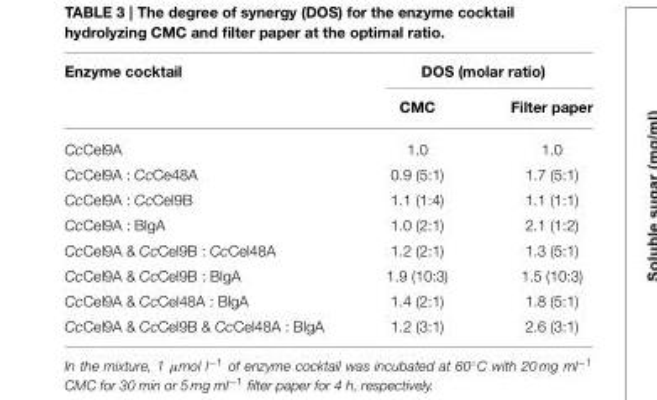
<table><thead><tr><td rowspan="2">Enzyme cocktail</td><td colspan="2">DOS (molar ratio)</td></tr><tr><td>CMC</td><td>Filter paper</td></tr></thead><tbody><tr><td>CcCel9A</td><td>1.0</td><td>1.0</td></tr><tr><td>CcCel9A : CcCe48A</td><td>0.9 (5:1)</td><td>1.7 (5:1)</td></tr><tr><td>CcCel9A : CcCel9B</td><td>1.1 (1:4)</td><td>1.1 (1:1)</td></tr><tr><td>CcCel9A : BlgA</td><td>1.0 (2:1)</td><td>2.1 (1:2)</td></tr><tr><td>CcCel9A &amp; CcCel9B : CcCel48A</td><td>1.2 (2:1)</td><td>1.3 (5:1)</td></tr><tr><td>CcCel9A &amp; CcCel9B : BlgA</td><td>1.9 (10:3)</td><td>1.5 (10:3)</td></tr><tr><td>CcCel9A &amp; CcCel48A : BlgA</td><td>1.4 (2:1)</td><td>1.8 (5:1)</td></tr><tr><td>CcCel9A &amp; CcCel9B &amp; CcCel48A : BlgA</td><td>1.2 (3:1)</td><td>2.6 (3:1)</td></tr></tbody></table>